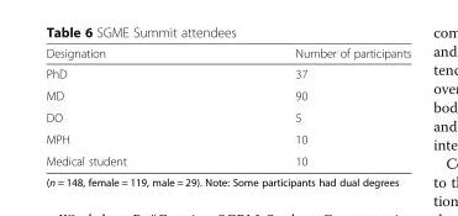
<table><thead><tr><td>Designation</td><td>Number of participants</td></tr></thead><tbody><tr><td>PhD</td><td>37</td></tr><tr><td>MD</td><td>90</td></tr><tr><td>DO</td><td>5</td></tr><tr><td>MPH</td><td>10</td></tr><tr><td>Medical student</td><td>10</td></tr></tbody></table>